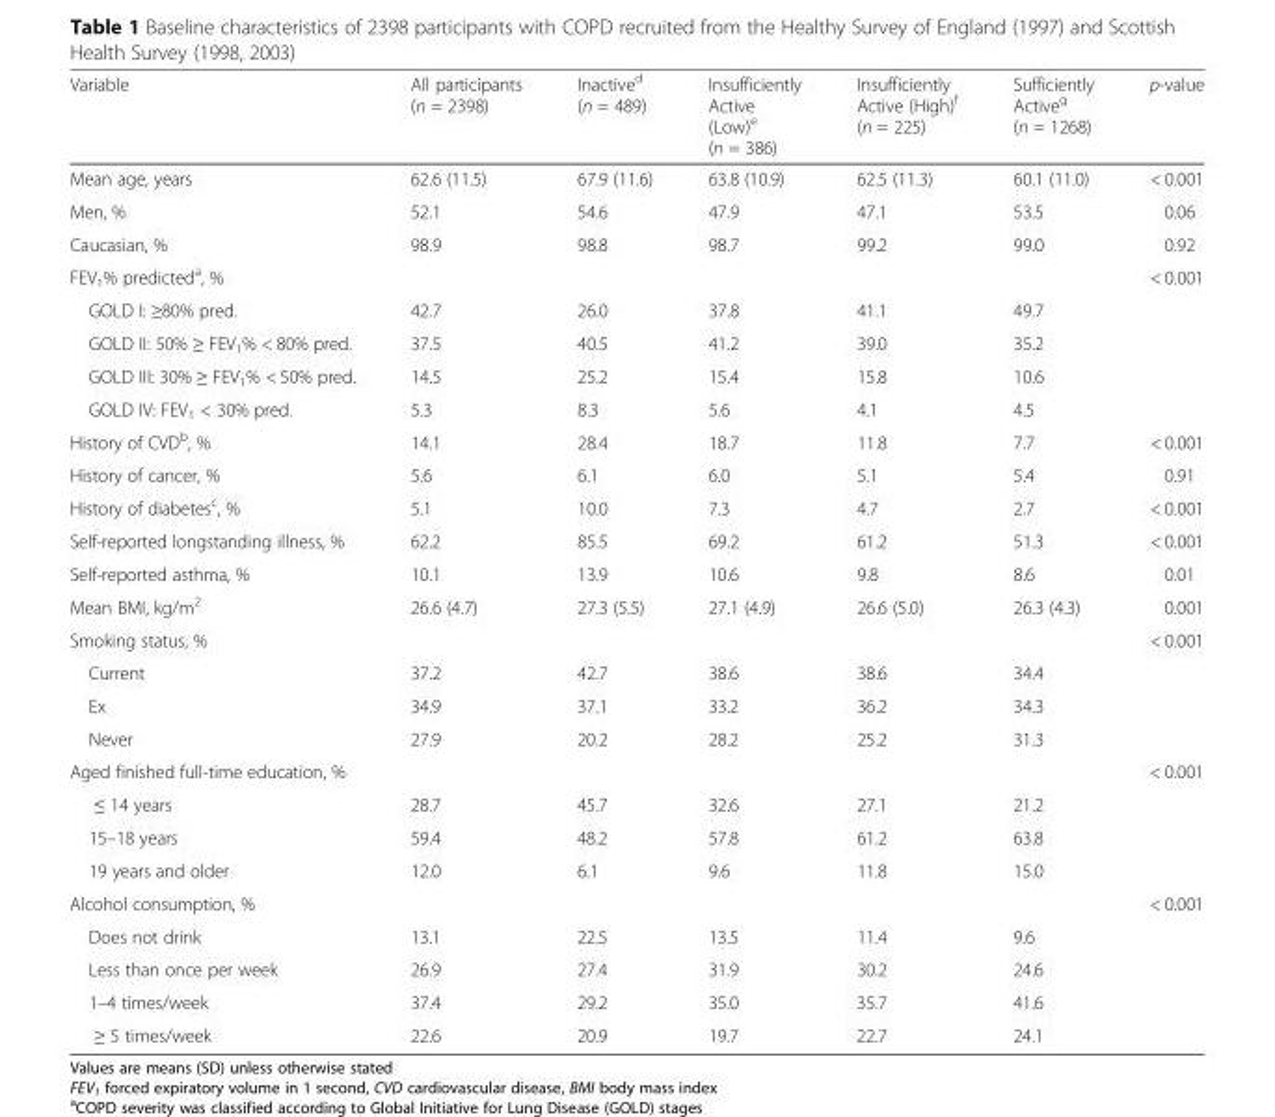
<table><thead><tr><td>Variable</td><td>All participants (n = 2398)</td><td>Inactive<sup>d</sup> (n = 489)</td><td>Insufficiently Active (Low)<sup>e</sup> (n = 386)</td><td>Insufficiently Active (High)<sup>f</sup> (n = 225)</td><td>Sufficiently Active<sup>g</sup> (n = 1268)</td><td>p-value</td></tr></thead><tbody><tr><td>Mean age, years</td><td>62.6 (11.5)</td><td>67.9 (11.6)</td><td>63.8 (10.9)</td><td>62.5 (11.3)</td><td>60.1 (11.0)</td><td>&lt; 0.001</td></tr><tr><td>Men, %</td><td>52.1</td><td>54.6</td><td>47.9</td><td>47.1</td><td>53.5</td><td>0.06</td></tr><tr><td>Caucasian, %</td><td>98.9</td><td>98.8</td><td>98.7</td><td>99.2</td><td>99.0</td><td>0.92</td></tr><tr><td>FEV<sub>1</sub>% predicted<sup>a</sup>, %</td><td></td><td></td><td></td><td></td><td></td><td>&lt; 0.001</td></tr><tr><td>GOLD I: ≥80% pred.</td><td>42.7</td><td>26.0</td><td>37.8</td><td>41.1</td><td>49.7</td><td></td></tr><tr><td>GOLD II: 50% ≥ FEV<sub>1</sub>% &lt; 80% pred.</td><td>37.5</td><td>40.5</td><td>41.2</td><td>39.0</td><td>35.2</td><td></td></tr><tr><td>GOLD III: 30% ≥ FEV<sub>1</sub>% &lt; 50% pred.</td><td>14.5</td><td>25.2</td><td>15.4</td><td>15.8</td><td>10.6</td><td></td></tr><tr><td>GOLD IV: FEV<sub>1</sub> &lt; 30% pred.</td><td>5.3</td><td>8.3</td><td>5.6</td><td>4.1</td><td>4.5</td><td></td></tr><tr><td>History of CVD<sup>b</sup>, %</td><td>14.1</td><td>28.4</td><td>18.7</td><td>11.8</td><td>7.7</td><td>&lt; 0.001</td></tr><tr><td>History of cancer, %</td><td>5.6</td><td>6.1</td><td>6.0</td><td>5.1</td><td>5.4</td><td>0.91</td></tr><tr><td>History of diabetes<sup>c</sup>, %</td><td>5.1</td><td>10.0</td><td>7.3</td><td>4.7</td><td>2.7</td><td>&lt; 0.001</td></tr><tr><td>Self-reported longstanding illness, %</td><td>62.2</td><td>85.5</td><td>69.2</td><td>61.2</td><td>51.3</td><td>&lt; 0.001</td></tr><tr><td>Self-reported asthma, %</td><td>10.1</td><td>13.9</td><td>10.6</td><td>9.8</td><td>8.6</td><td>0.01</td></tr><tr><td>Mean BMI, kg/m<sup>2</sup></td><td>26.6 (4.7)</td><td>27.3 (5.5)</td><td>27.1 (4.9)</td><td>26.6 (5.0)</td><td>26.3 (4.3)</td><td>0.001</td></tr><tr><td>Smoking status, %</td><td></td><td></td><td></td><td></td><td></td><td>&lt; 0.001</td></tr><tr><td>Current</td><td>37.2</td><td>42.7</td><td>38.6</td><td>38.6</td><td>34.4</td><td></td></tr><tr><td>Ex</td><td>34.9</td><td>37.1</td><td>33.2</td><td>36.2</td><td>34.3</td><td></td></tr><tr><td>Never</td><td>27.9</td><td>20.2</td><td>28.2</td><td>25.2</td><td>31.3</td><td></td></tr><tr><td>Aged finished full-time education, %</td><td></td><td></td><td></td><td></td><td></td><td>&lt; 0.001</td></tr><tr><td>≤ 14 years</td><td>28.7</td><td>45.7</td><td>32.6</td><td>27.1</td><td>21.2</td><td></td></tr><tr><td>15–18 years</td><td>59.4</td><td>48.2</td><td>57.8</td><td>61.2</td><td>63.8</td><td></td></tr><tr><td>19 years and older</td><td>12.0</td><td>6.1</td><td>9.6</td><td>11.8</td><td>15.0</td><td></td></tr><tr><td>Alcohol consumption, %</td><td></td><td></td><td></td><td></td><td></td><td>&lt; 0.001</td></tr><tr><td>Does not drink</td><td>13.1</td><td>22.5</td><td>13.5</td><td>11.4</td><td>9.6</td><td></td></tr><tr><td>Less than once per week</td><td>26.9</td><td>27.4</td><td>31.9</td><td>30.2</td><td>24.6</td><td></td></tr><tr><td>1–4 times/week</td><td>37.4</td><td>29.2</td><td>35.0</td><td>35.7</td><td>41.6</td><td></td></tr><tr><td>≥ 5 times/week</td><td>22.6</td><td>20.9</td><td>19.7</td><td>22.7</td><td>24.1</td><td></td></tr></tbody></table>